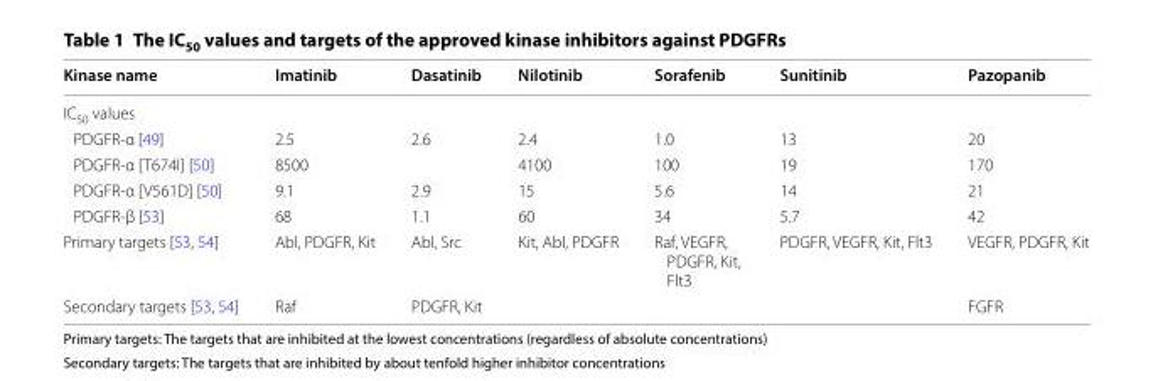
<table><thead><tr><td>Kinase name</td><td>Imatinib</td><td>Dasatinib</td><td>Nilotinib</td><td>Sorafenib</td><td>Sunitinib</td><td>Pazopanib</td></tr></thead><tbody><tr><td colspan="7">IC<sub>50</sub> values</td></tr><tr><td>PDGFR-α [49]</td><td>2.5</td><td>2.6</td><td>2.4</td><td>1.0</td><td>13</td><td>20</td></tr><tr><td>PDGFR-α [T674I] [50]</td><td>8500</td><td></td><td>4100</td><td>100</td><td>19</td><td>170</td></tr><tr><td>PDGFR-α [V561D] [50]</td><td>9.1</td><td>2.9</td><td>15</td><td>5.6</td><td>14</td><td>21</td></tr><tr><td>PDGFR-β [53]</td><td>68</td><td>1.1</td><td>60</td><td>34</td><td>5.7</td><td>42</td></tr><tr><td>Primary targets [53, 54]</td><td>Abl, PDGFR, Kit</td><td>Abl, Src</td><td>Kit, Abl, PDGFR</td><td>Raf, VEGFR, PDGFR, Kit, Flt3</td><td>PDGFR, VEGFR, Kit, Flt3</td><td>VEGFR, PDGFR, Kit</td></tr><tr><td>Secondary targets [53, 54]</td><td>Raf</td><td>PDGFR, Kit</td><td></td><td></td><td></td><td>FGFR</td></tr></tbody></table>